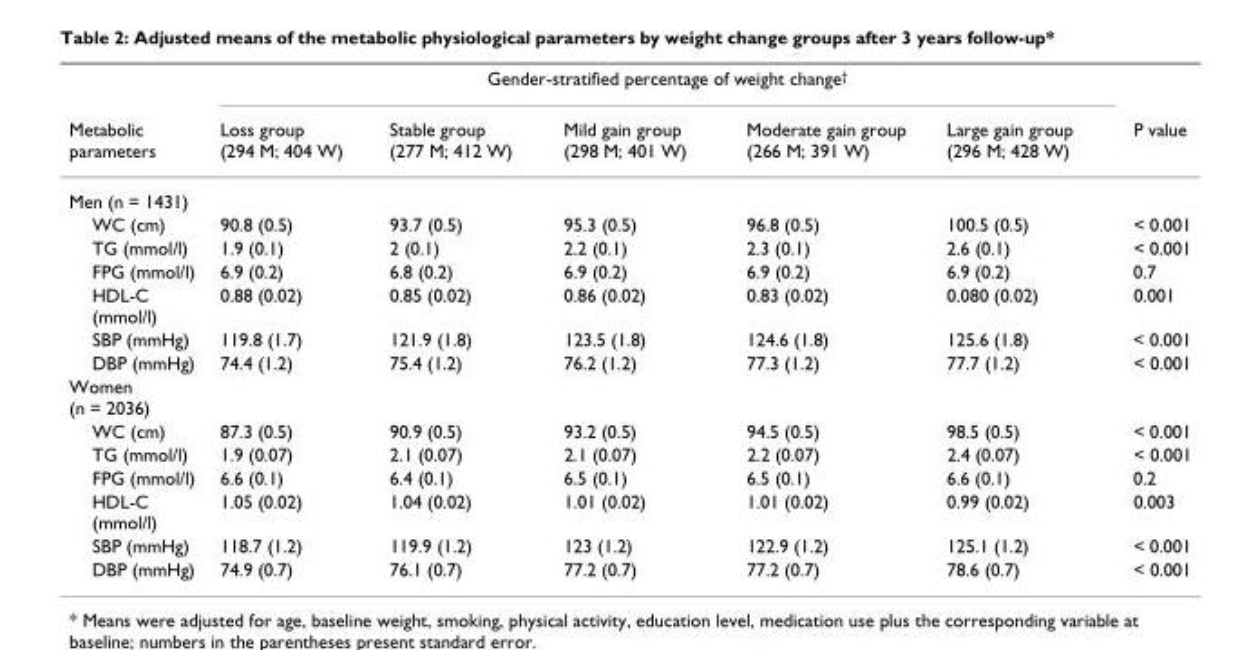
<table><thead><tr><td rowspan="2">Metabolic parameters</td><td colspan="5">Gender-stratified percentage of weight change<sup>†</sup></td><td rowspan="2">P value</td></tr><tr><td>Loss group (294 M; 404 W)</td><td>Stable group (277 M; 412 W)</td><td>Mild gain group (298 M; 401 W)</td><td>Moderate gain group (266 M; 391 W)</td><td>Large gain group (296 M; 428 W)</td></tr></thead><tbody><tr><td colspan="7">Men (n = 1431)</td></tr><tr><td>WC (cm)</td><td>90.8 (0.5)</td><td>93.7 (0.5)</td><td>95.3 (0.5)</td><td>96.8 (0.5)</td><td>100.5 (0.5)</td><td>&lt; 0.001</td></tr><tr><td>TG (mmol/l)</td><td>1.9 (0.1)</td><td>2 (0.1)</td><td>2.2 (0.1)</td><td>2.3 (0.1)</td><td>2.6 (0.1)</td><td>&lt; 0.001</td></tr><tr><td>FPG (mmol/l)</td><td>6.9 (0.2)</td><td>6.8 (0.2)</td><td>6.9 (0.2)</td><td>6.9 (0.2)</td><td>6.9 (0.2)</td><td>0.7</td></tr><tr><td>HDL-C (mmol/l)</td><td>0.88 (0.02)</td><td>0.85 (0.02)</td><td>0.86 (0.02)</td><td>0.83 (0.02)</td><td>0.080 (0.02)</td><td>0.001</td></tr><tr><td>SBP (mmHg)</td><td>119.8 (1.7)</td><td>121.9 (1.8)</td><td>123.5 (1.8)</td><td>124.6 (1.8)</td><td>125.6 (1.8)</td><td>&lt; 0.001</td></tr><tr><td>DBP (mmHg)</td><td>74.4 (1.2)</td><td>75.4 (1.2)</td><td>76.2 (1.2)</td><td>77.3 (1.2)</td><td>77.7 (1.2)</td><td>&lt; 0.001</td></tr><tr><td colspan="7">Women (n = 2036)</td></tr><tr><td>WC (cm)</td><td>87.3 (0.5)</td><td>90.9 (0.5)</td><td>93.2 (0.5)</td><td>94.5 (0.5)</td><td>98.5 (0.5)</td><td>&lt; 0.001</td></tr><tr><td>TG (mmol/l)</td><td>1.9 (0.07)</td><td>2.1 (0.07)</td><td>2.1 (0.07)</td><td>2.2 (0.07)</td><td>2.4 (0.07)</td><td>&lt; 0.001</td></tr><tr><td>FPG (mmol/l)</td><td>6.6 (0.1)</td><td>6.4 (0.1)</td><td>6.5 (0.1)</td><td>6.5 (0.1)</td><td>6.6 (0.1)</td><td>0.2</td></tr><tr><td>HDL-C (mmol/l)</td><td>1.05 (0.02)</td><td>1.04 (0.02)</td><td>1.01 (0.02)</td><td>1.01 (0.02)</td><td>0.99 (0.02)</td><td>0.003</td></tr><tr><td>SBP (mmHg)</td><td>118.7 (1.2)</td><td>119.9 (1.2)</td><td>123 (1.2)</td><td>122.9 (1.2)</td><td>125.1 (1.2)</td><td>&lt; 0.001</td></tr><tr><td>DBP (mmHg)</td><td>74.9 (0.7)</td><td>76.1 (0.7)</td><td>77.2 (0.7)</td><td>77.2 (0.7)</td><td>78.6 (0.7)</td><td>&lt; 0.001</td></tr></tbody></table>